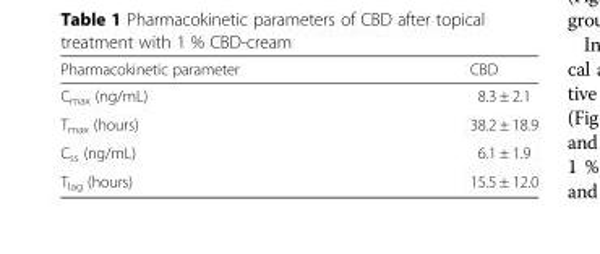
<table><thead><tr><td>Pharmacokinetic parameter</td><td>CBD</td></tr></thead><tbody><tr><td>C<sub>max</sub> (ng/mL)</td><td>8.3 ± 2.1</td></tr><tr><td>T<sub>max</sub> (hours)</td><td>38.2 ± 18.9</td></tr><tr><td>C<sub>ss</sub> (ng/mL)</td><td>6.1 ± 1.9</td></tr><tr><td>T<sub>lag</sub> (hours)</td><td>15.5 ± 12.0</td></tr></tbody></table>